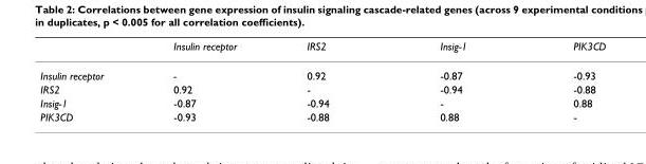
<table><thead><tr><td></td><td>Insulin receptor</td><td>IRS2</td><td>Insig-1</td><td>PIK3CD</td></tr></thead><tbody><tr><td>Insulin receptor</td><td>-</td><td>0.92</td><td>-0.87</td><td>-0.93</td></tr><tr><td>IRS2</td><td>0.92</td><td>-</td><td>-0.94</td><td>-0.88</td></tr><tr><td>Insig-1</td><td>-0.87</td><td>-0.94</td><td>-</td><td>0.88</td></tr><tr><td>PIK3CD</td><td>-0.93</td><td>-0.88</td><td>0.88</td><td>-</td></tr></tbody></table>